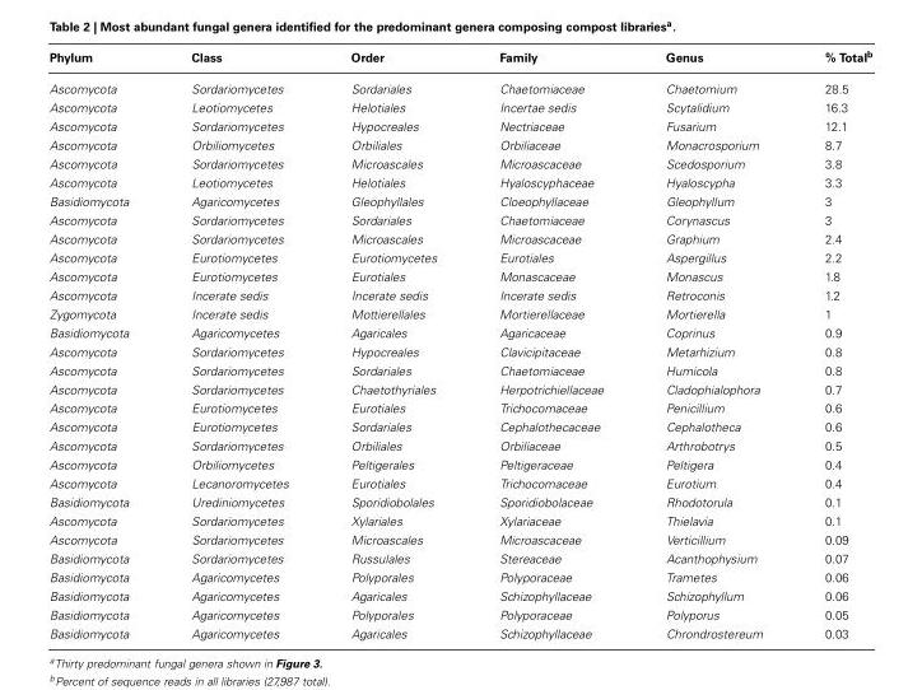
<table><thead><tr><td>Phylum</td><td>Class</td><td>Order</td><td>Family</td><td>Genus</td><td>% Total<sup>b</sup></td></tr></thead><tbody><tr><td>Ascomycota</td><td>Sordariomycetes</td><td>Sordariales</td><td>Chaetomiaceae</td><td>Chaetomium</td><td>28.5</td></tr><tr><td>Ascomycota</td><td>Leotiomycetes</td><td>Helotiales</td><td>Incertae sedis</td><td>Scytalidium</td><td>16.3</td></tr><tr><td>Ascomycota</td><td>Sordariomycetes</td><td>Hypocreales</td><td>Nectriaceae</td><td>Fusarium</td><td>12.1</td></tr><tr><td>Ascomycota</td><td>Orbiliomycetes</td><td>Orbiliales</td><td>Orbiliaceae</td><td>Monacrosporium</td><td>8.7</td></tr><tr><td>Ascomycota</td><td>Sordariomycetes</td><td>Microascales</td><td>Microascaceae</td><td>Scedosporium</td><td>3.8</td></tr><tr><td>Ascomycota</td><td>Leotiomycetes</td><td>Helotiales</td><td>Hyaloscyphaceae</td><td>Hyaloscypha</td><td>3.3</td></tr><tr><td>Basidiomycota</td><td>Agaricomycetes</td><td>Gleophyllales</td><td>Cloeophyllaceae</td><td>Gleophyllum</td><td>3</td></tr><tr><td>Ascomycota</td><td>Sordariomycetes</td><td>Sordariales</td><td>Chaetomiaceae</td><td>Corynascus</td><td>3</td></tr><tr><td>Ascomycota</td><td>Sordariomycetes</td><td>Microascales</td><td>Microascaceae</td><td>Graphium</td><td>2.4</td></tr><tr><td>Ascomycota</td><td>Eurotiomycetes</td><td>Eurotiomycetes</td><td>Eurotiales</td><td>Aspergillus</td><td>2.2</td></tr><tr><td>Ascomycota</td><td>Eurotiomycetes</td><td>Eurotiales</td><td>Monascaceae</td><td>Monascus</td><td>1.8</td></tr><tr><td>Ascomycota</td><td>Incerate sedis</td><td>Incerate sedis</td><td>Incerate sedis</td><td>Retroconis</td><td>1.2</td></tr><tr><td>Zygomycota</td><td>Incerate sedis</td><td>Mottierellales</td><td>Mortierellaceae</td><td>Mortierella</td><td>1</td></tr><tr><td>Basidiomycota</td><td>Agaricomycetes</td><td>Agaricales</td><td>Agaricaceae</td><td>Coprinus</td><td>0.9</td></tr><tr><td>Ascomycota</td><td>Sordariomycetes</td><td>Hypocreales</td><td>Clavicipitaceae</td><td>Metarhizium</td><td>0.8</td></tr><tr><td>Ascomycota</td><td>Sordariomycetes</td><td>Sordariales</td><td>Chaetomiaceae</td><td>Humicola</td><td>0.8</td></tr><tr><td>Ascomycota</td><td>Sordariomycetes</td><td>Chaetothyriales</td><td>Herpotrichiellaceae</td><td>Cladophialophora</td><td>0.7</td></tr><tr><td>Ascomycota</td><td>Eurotiomycetes</td><td>Eurotiales</td><td>Trichocomaceae</td><td>Penicillium</td><td>0.6</td></tr><tr><td>Ascomycota</td><td>Eurotiomycetes</td><td>Sordariales</td><td>Cephalothecaceae</td><td>Cephalotheca</td><td>0.6</td></tr><tr><td>Ascomycota</td><td>Sordariomycetes</td><td>Orbiliales</td><td>Orbiliaceae</td><td>Arthrobotrys</td><td>0.5</td></tr><tr><td>Ascomycota</td><td>Orbiliomycetes</td><td>Peltigerales</td><td>Peltigeraceae</td><td>Peltigera</td><td>0.4</td></tr><tr><td>Ascomycota</td><td>Lecanoromycetes</td><td>Eurotiales</td><td>Trichocomaceae</td><td>Eurotium</td><td>0.4</td></tr><tr><td>Basidiomycota</td><td>Urediniomycetes</td><td>Sporidiobolales</td><td>Sporidiobolaceae</td><td>Rhodotorula</td><td>0.1</td></tr><tr><td>Ascomycota</td><td>Sordariomycetes</td><td>Xylariales</td><td>Xylariaceae</td><td>Thielavia</td><td>0.1</td></tr><tr><td>Ascomycota</td><td>Sordariomycetes</td><td>Microascales</td><td>Microascaceae</td><td>Verticillium</td><td>0.09</td></tr><tr><td>Basidiomycota</td><td>Sordariomycetes</td><td>Russulales</td><td>Stereaceae</td><td>Acanthophysium</td><td>0.07</td></tr><tr><td>Basidiomycota</td><td>Agaricomycetes</td><td>Polyporales</td><td>Polyporaceae</td><td>Trametes</td><td>0.06</td></tr><tr><td>Basidiomycota</td><td>Agaricomycetes</td><td>Agaricales</td><td>Schizophyllaceae</td><td>Schizophyllum</td><td>0.06</td></tr><tr><td>Basidiomycota</td><td>Agaricomycetes</td><td>Polyporales</td><td>Polyporaceae</td><td>Polyporus</td><td>0.05</td></tr><tr><td>Basidiomycota</td><td>Agaricomycetes</td><td>Agaricales</td><td>Schizophyllaceae</td><td>Chrondrostereum</td><td>0.03</td></tr></tbody></table>